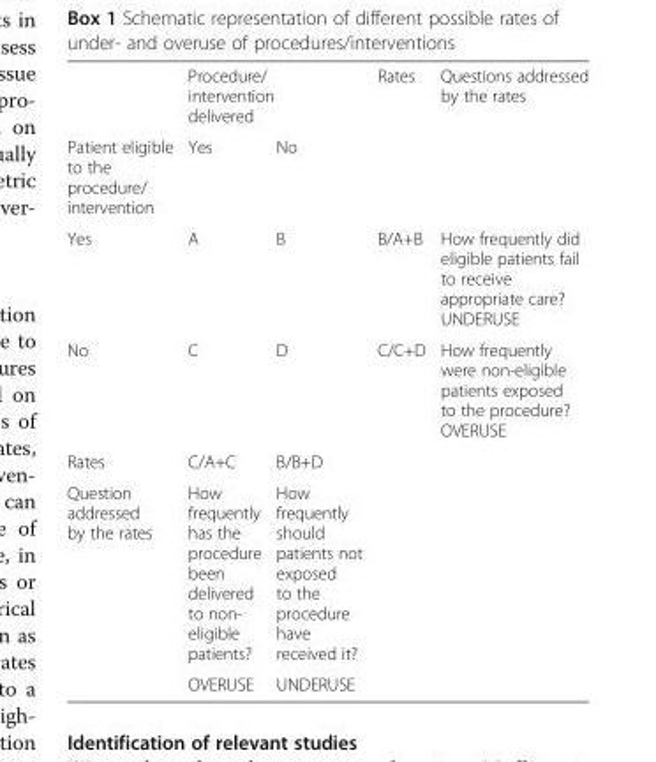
<table><thead><tr><td rowspan="2">Patient eligible to the procedure/ intervention</td><td colspan="2">Procedure/ intervention delivered</td><td rowspan="2">Rates</td><td rowspan="2">Questions addressed by the rates</td></tr><tr><td>Yes</td><td>No</td></tr></thead><tbody><tr><td>Yes</td><td>A</td><td>B</td><td>B/A+B</td><td>How frequently did eligible patients fail to receive appropriate care? UNDERUSE</td></tr><tr><td>No</td><td>C</td><td>D</td><td>C/C+D</td><td>How frequently were non-eligible patients exposed to the procedure? OVERUSE</td></tr><tr><td>Rates</td><td>C/A+C</td><td>B/B+D</td><td rowspan="3" colspan="2"></td></tr><tr><td rowspan="2">Question addressed by the rates</td><td>How frequently has the procedure been delivered to non- eligible patients?</td><td>How frequently should patients not exposed to the procedure have received it?</td></tr><tr><td>OVERUSE</td><td>UNDERUSE</td></tr></tbody></table>